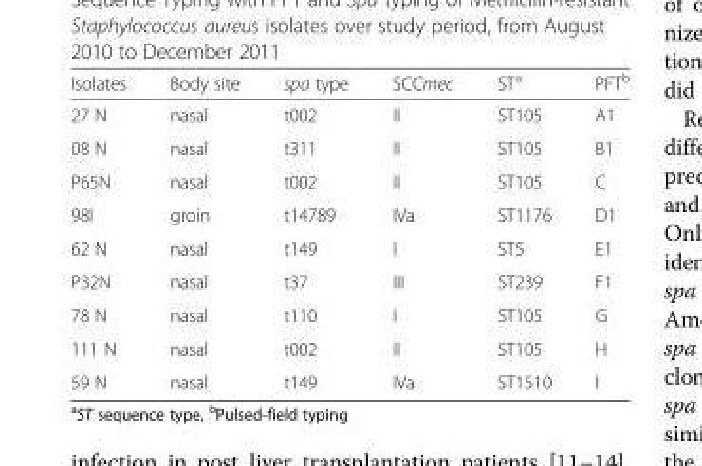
<table><thead><tr><td>Isolates</td><td>Body site</td><td>spa type</td><td>SCCmec</td><td>ST<sup>a</sup></td><td>PFT<sup>b</sup></td></tr></thead><tbody><tr><td>27 N</td><td>nasal</td><td>t002</td><td>II</td><td>ST105</td><td>A1</td></tr><tr><td>08 N</td><td>nasal</td><td>t311</td><td>II</td><td>ST105</td><td>B1</td></tr><tr><td>P65N</td><td>nasal</td><td>t002</td><td>II</td><td>ST105</td><td>C</td></tr><tr><td>98I</td><td>groin</td><td>t14789</td><td>IVa</td><td>ST1176</td><td>D1</td></tr><tr><td>62 N</td><td>nasal</td><td>t149</td><td>I</td><td>ST5</td><td>E1</td></tr><tr><td>P32N</td><td>nasal</td><td>t37</td><td>III</td><td>ST239</td><td>F1</td></tr><tr><td>78 N</td><td>nasal</td><td>t110</td><td>I</td><td>ST105</td><td>G</td></tr><tr><td>111 N</td><td>nasal</td><td>t002</td><td>II</td><td>ST105</td><td>H</td></tr><tr><td>59 N</td><td>nasal</td><td>t149</td><td>IVa</td><td>ST1510</td><td>I</td></tr></tbody></table>